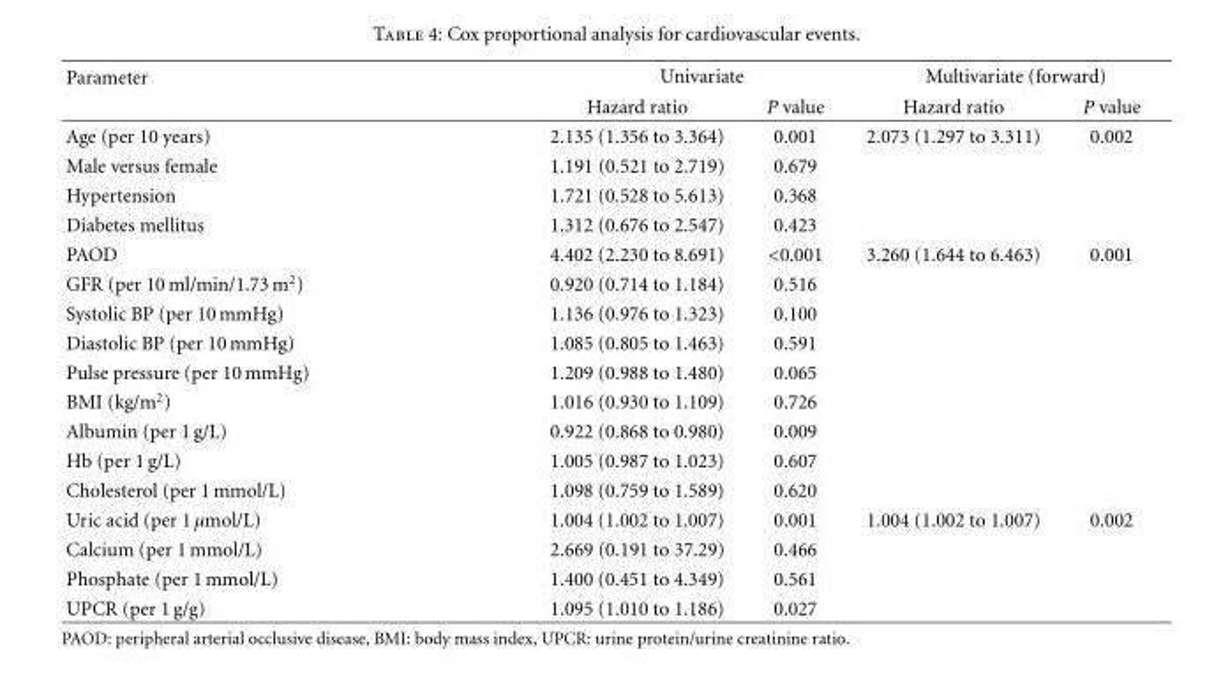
<table><thead><tr><td rowspan="2">Parameter</td><td colspan="2">Univariate</td><td colspan="2">Multivariate (forward)</td></tr><tr><td>Hazard ratio</td><td>P value</td><td>Hazard ratio</td><td>P value</td></tr></thead><tbody><tr><td>Age (per 10 years)</td><td>2.135 (1.356 to 3.364)</td><td>0.001</td><td>2.073 (1.297 to 3.311)</td><td>0.002</td></tr><tr><td>Male versus female</td><td>1.191 (0.521 to 2.719)</td><td>0.679</td><td></td><td></td></tr><tr><td>Hypertension</td><td>1.721 (0.528 to 5.613)</td><td>0.368</td><td></td><td></td></tr><tr><td>Diabetes mellitus</td><td>1.312 (0.676 to 2.547)</td><td>0.423</td><td></td><td></td></tr><tr><td>PAOD</td><td>4.402 (2.230 to 8.691)</td><td>&lt;0.001</td><td>3.260 (1.644 to 6.463)</td><td>0.001</td></tr><tr><td>GFR (per 10 ml/min/1.73 m<sup>2</sup>)</td><td>0.920 (0.714 to 1.184)</td><td>0.516</td><td></td><td></td></tr><tr><td>Systolic BP (per 10 mmHg)</td><td>1.136 (0.976 to 1.323)</td><td>0.100</td><td></td><td></td></tr><tr><td>Diastolic BP (per 10 mmHg)</td><td>1.085 (0.805 to 1.463)</td><td>0.591</td><td></td><td></td></tr><tr><td>Pulse pressure (per 10 mmHg)</td><td>1.209 (0.988 to 1.480)</td><td>0.065</td><td></td><td></td></tr><tr><td>BMI (kg/m<sup>2</sup>)</td><td>1.016 (0.930 to 1.109)</td><td>0.726</td><td></td><td></td></tr><tr><td>Albumin (per 1 g/L)</td><td>0.922 (0.868 to 0.980)</td><td>0.009</td><td></td><td></td></tr><tr><td>Hb (per 1 g/L)</td><td>1.005 (0.987 to 1.023)</td><td>0.607</td><td></td><td></td></tr><tr><td>Cholesterol (per 1 mmol/L)</td><td>1.098 (0.759 to 1.589)</td><td>0.620</td><td></td><td></td></tr><tr><td>Uric acid (per 1 μmol/L)</td><td>1.004 (1.002 to 1.007)</td><td>0.001</td><td>1.004 (1.002 to 1.007)</td><td>0.002</td></tr><tr><td>Calcium (per 1 mmol/L)</td><td>2.669 (0.191 to 37.29)</td><td>0.466</td><td></td><td></td></tr><tr><td>Phosphate (per 1 mmol/L)</td><td>1.400 (0.451 to 4.349)</td><td>0.561</td><td></td><td></td></tr><tr><td>UPCR (per 1 g/g)</td><td>1.095 (1.010 to 1.186)</td><td>0.027</td><td></td><td></td></tr></tbody></table>